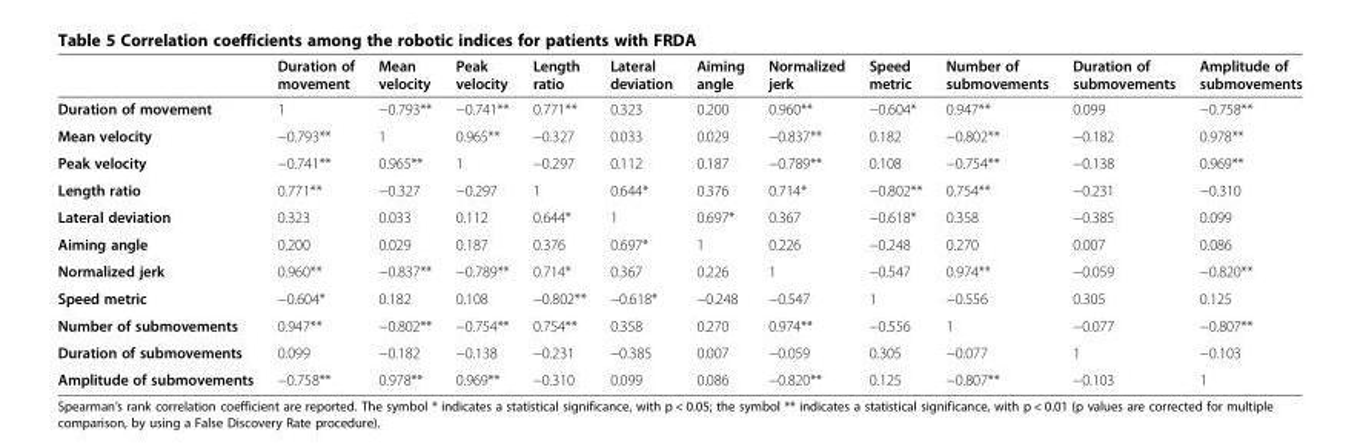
<table><thead><tr><td></td><td>Duration of movement</td><td>Mean velocity</td><td>Peak velocity</td><td>Length ratio</td><td>Lateral deviation</td><td>Aiming angle</td><td>Normalized jerk</td><td>Speed metric</td><td>Number of submovements</td><td>Duration of submovements</td><td>Amplitude of submovements</td></tr></thead><tbody><tr><td>Duration of movement</td><td>1</td><td>−0.793**</td><td>−0.741**</td><td>0.771**</td><td>0.323</td><td>0.200</td><td>0.960**</td><td>−0.604*</td><td>0.947**</td><td>0.099</td><td>−0.758**</td></tr><tr><td>Mean velocity</td><td>−0.793**</td><td>1</td><td>0.965**</td><td>−0.327</td><td>0.033</td><td>0.029</td><td>−0.837**</td><td>0.182</td><td>−0.802**</td><td>−0.182</td><td>0.978**</td></tr><tr><td>Peak velocity</td><td>−0.741**</td><td>0.965**</td><td>1</td><td>−0.297</td><td>0.112</td><td>0.187</td><td>−0.789**</td><td>0.108</td><td>−0.754**</td><td>−0.138</td><td>0.969**</td></tr><tr><td>Length ratio</td><td>0.771**</td><td>−0.327</td><td>−0.297</td><td>1</td><td>0.644*</td><td>0.376</td><td>0.714*</td><td>−0.802**</td><td>0.754**</td><td>−0.231</td><td>−0.310</td></tr><tr><td>Lateral deviation</td><td>0.323</td><td>0.033</td><td>0.112</td><td>0.644*</td><td>1</td><td>0.697*</td><td>0.367</td><td>−0.618*</td><td>0.358</td><td>−0.385</td><td>0.099</td></tr><tr><td>Aiming angle</td><td>0.200</td><td>0.029</td><td>0.187</td><td>0.376</td><td>0.697*</td><td>1</td><td>0.226</td><td>−0.248</td><td>0.270</td><td>0.007</td><td>0.086</td></tr><tr><td>Normalized jerk</td><td>0.960**</td><td>−0.837**</td><td>−0.789**</td><td>0.714*</td><td>0.367</td><td>0.226</td><td>1</td><td>−0.547</td><td>0.974**</td><td>−0.059</td><td>−0.820**</td></tr><tr><td>Speed metric</td><td>−0.604*</td><td>0.182</td><td>0.108</td><td>−0.802**</td><td>−0.618*</td><td>−0.248</td><td>−0.547</td><td>1</td><td>−0.556</td><td>0.305</td><td>0.125</td></tr><tr><td>Number of submovements</td><td>0.947**</td><td>−0.802**</td><td>−0.754**</td><td>0.754**</td><td>0.358</td><td>0.270</td><td>0.974**</td><td>−0.556</td><td>1</td><td>−0.077</td><td>−0.807**</td></tr><tr><td>Duration of submovements</td><td>0.099</td><td>−0.182</td><td>−0.138</td><td>−0.231</td><td>−0.385</td><td>0.007</td><td>−0.059</td><td>0.305</td><td>−0.077</td><td>1</td><td>−0.103</td></tr><tr><td>Amplitude of submovements</td><td>−0.758**</td><td>0.978**</td><td>0.969**</td><td>−0.310</td><td>0.099</td><td>0.086</td><td>−0.820**</td><td>0.125</td><td>−0.807**</td><td>−0.103</td><td>1</td></tr></tbody></table>